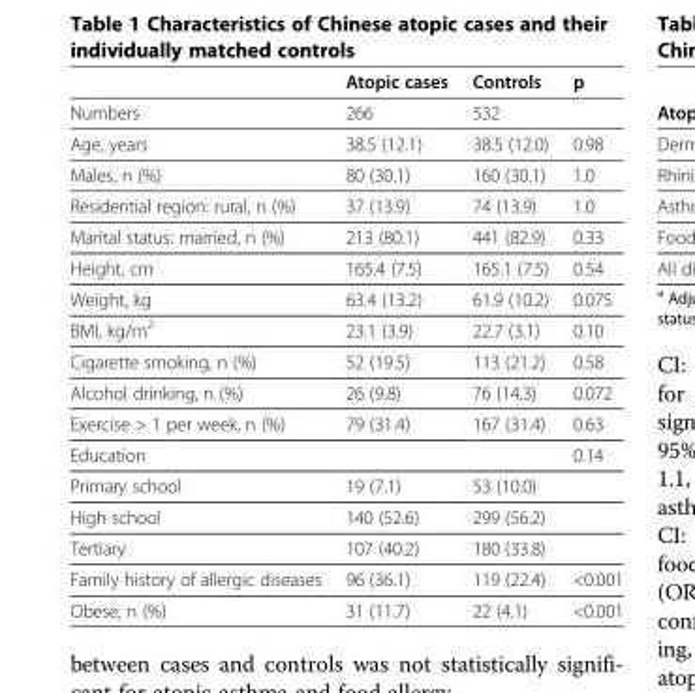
<table><thead><tr><td></td><td>Atopic cases</td><td>Controls</td><td>p</td></tr></thead><tbody><tr><td>Numbers</td><td>266</td><td>532</td><td></td></tr><tr><td>Age, years</td><td>38.5 (12.1)</td><td>38.5 (12.0)</td><td>0.98</td></tr><tr><td>Males, n (%)</td><td>80 (30.1)</td><td>160 (30.1)</td><td>1.0</td></tr><tr><td>Residential region: rural, n (%)</td><td>37 (13.9)</td><td>74 (13.9)</td><td>1.0</td></tr><tr><td>Marital status: married, n (%)</td><td>213 (80.1)</td><td>441 (82.9)</td><td>0.33</td></tr><tr><td>Height, cm</td><td>165.4 (7.5)</td><td>165.1 (7.5)</td><td>0.54</td></tr><tr><td>Weight, kg</td><td>63.4 (13.2)</td><td>61.9 (10.2)</td><td>0.075</td></tr><tr><td>BMI, kg/m<sup>2</sup></td><td>23.1 (3.9)</td><td>22.7 (3.1)</td><td>0.10</td></tr><tr><td>Cigarette smoking, n (%)</td><td>52 (19.5)</td><td>113 (21.2)</td><td>0.58</td></tr><tr><td>Alcohol drinking, n (%)</td><td>26 (9.8)</td><td>76 (14.3)</td><td>0.072</td></tr><tr><td>Exercise &gt; 1 per week, n (%)</td><td>79 (31.4)</td><td>167 (31.4)</td><td>0.63</td></tr><tr><td>Education</td><td></td><td></td><td>0.14</td></tr><tr><td>Primary school</td><td>19 (7.1)</td><td>53 (10.0)</td><td></td></tr><tr><td>High school</td><td>140 (52.6)</td><td>299 (56.2)</td><td></td></tr><tr><td>Tertiary</td><td>107 (40.2)</td><td>180 (33.8)</td><td></td></tr><tr><td>Family history of allergic diseases</td><td>96 (36.1)</td><td>119 (22.4)</td><td>&lt;0.001</td></tr><tr><td>Obese, n (%)</td><td>31 (11.7)</td><td>22 (4.1)</td><td>&lt;0.001</td></tr></tbody></table>